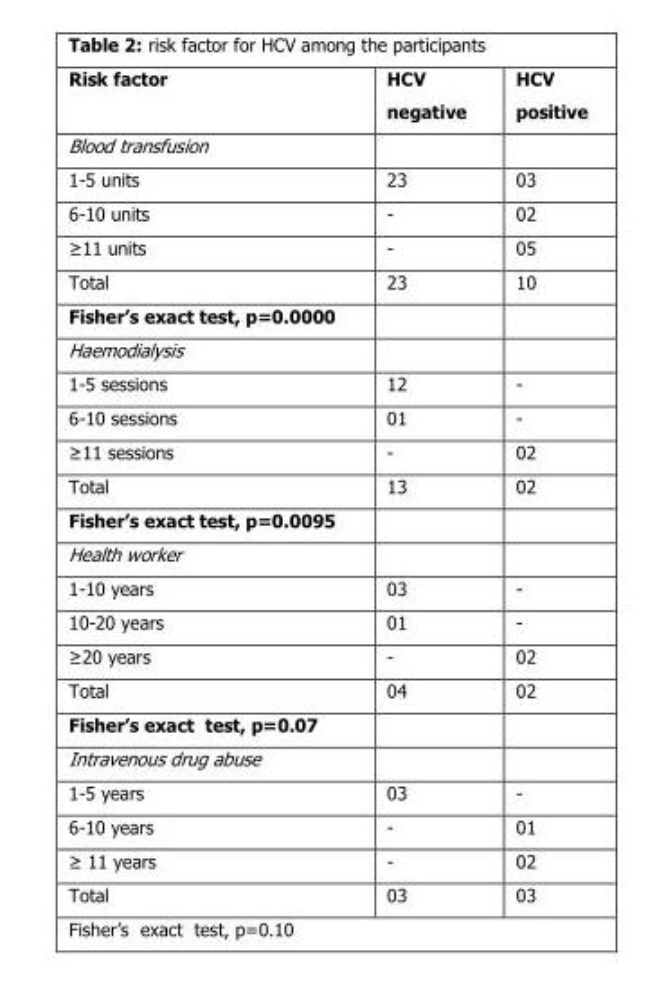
<table><thead><tr><td>Risk factor</td><td>HCV negative</td><td>HCV positive</td></tr></thead><tbody><tr><td colspan="3">Blood transfusion</td></tr><tr><td>1-5 units</td><td>23</td><td>03</td></tr><tr><td>6-10 units</td><td>-</td><td>02</td></tr><tr><td>≥11 units</td><td>-</td><td>05</td></tr><tr><td>Total</td><td>23</td><td>10</td></tr><tr><td colspan="3">Fisher’s exact test, p=0.0000</td></tr><tr><td colspan="3">Haemodialysis</td></tr><tr><td>1-5 sessions</td><td>12</td><td>-</td></tr><tr><td>6-10 sessions</td><td>01</td><td>-</td></tr><tr><td>≥11 sessions</td><td>-</td><td>02</td></tr><tr><td>Total</td><td>13</td><td>02</td></tr><tr><td colspan="3">Fisher’s exact test, p=0.0095</td></tr><tr><td colspan="3">Health worker</td></tr><tr><td>1-10 years</td><td>03</td><td>-</td></tr><tr><td>10-20 years</td><td>01</td><td>-</td></tr><tr><td>≥20 years</td><td>-</td><td>02</td></tr><tr><td>Total</td><td>04</td><td>02</td></tr><tr><td colspan="3">Fisher’s exact test, p=0.07</td></tr><tr><td colspan="3">Intravenous drug abuse</td></tr><tr><td>1-5 years</td><td>03</td><td>-</td></tr><tr><td>6-10 years</td><td>-</td><td>01</td></tr><tr><td>≥ 11 years</td><td>-</td><td>02</td></tr><tr><td>Total</td><td>03</td><td>03</td></tr><tr><td>Fisher’s exact test, p=0.10</td><td></td><td></td></tr></tbody></table>